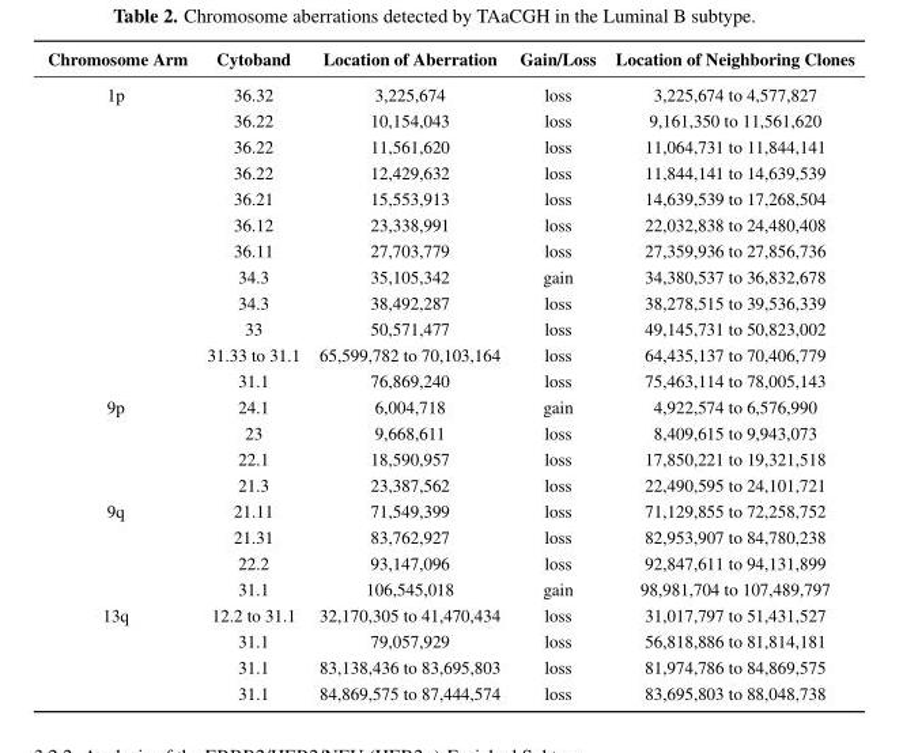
<table><thead><tr><td>Chromosome Arm</td><td>Cytoband</td><td>Location of Aberration</td><td>Gain/Loss</td><td>Location of Neighboring Clones</td></tr></thead><tbody><tr><td rowspan="12">1p</td><td>36.32</td><td>3,225,674</td><td>loss</td><td>3,225,674 to 4,577,827</td></tr><tr><td>36.22</td><td>10,154,043</td><td>loss</td><td>9,161,350 to 11,561,620</td></tr><tr><td>36.22</td><td>11,561,620</td><td>loss</td><td>11,064,731 to 11,844,141</td></tr><tr><td>36.22</td><td>12,429,632</td><td>loss</td><td>11,844,141 to 14,639,539</td></tr><tr><td>36.21</td><td>15,553,913</td><td>loss</td><td>14,639,539 to 17,268,504</td></tr><tr><td>36.12</td><td>23,338,991</td><td>loss</td><td>22,032,838 to 24,480,408</td></tr><tr><td>36.11</td><td>27,703,779</td><td>loss</td><td>27,359,936 to 27,856,736</td></tr><tr><td>34.3</td><td>35,105,342</td><td>gain</td><td>34,380,537 to 36,832,678</td></tr><tr><td>34.3</td><td>38,492,287</td><td>loss</td><td>38,278,515 to 39,536,339</td></tr><tr><td>33</td><td>50,571,477</td><td>loss</td><td>49,145,731 to 50,823,002</td></tr><tr><td>31.33 to 31.1</td><td>65,599,782 to 70,103,164</td><td>loss</td><td>64,435,137 to 70,406,779</td></tr><tr><td>31.1</td><td>76,869,240</td><td>loss</td><td>75,463,114 to 78,005,143</td></tr><tr><td rowspan="4">9p</td><td>24.1</td><td>6,004,718</td><td>gain</td><td>4,922,574 to 6,576,990</td></tr><tr><td>23</td><td>9,668,611</td><td>loss</td><td>8,409,615 to 9,943,073</td></tr><tr><td>22.1</td><td>18,590,957</td><td>loss</td><td>17,850,221 to 19,321,518</td></tr><tr><td>21.3</td><td>23,387,562</td><td>loss</td><td>22,490,595 to 24,101,721</td></tr><tr><td rowspan="4">9q</td><td>21.11</td><td>71,549,399</td><td>loss</td><td>71,129,855 to 72,258,752</td></tr><tr><td>21.31</td><td>83,762,927</td><td>loss</td><td>82,953,907 to 84,780,238</td></tr><tr><td>22.2</td><td>93,147,096</td><td>loss</td><td>92,847,611 to 94,131,899</td></tr><tr><td>31.1</td><td>106,545,018</td><td>gain</td><td>98,981,704 to 107,489,797</td></tr><tr><td rowspan="4">13q</td><td>12.2 to 31.1</td><td>32,170,305 to 41,470,434</td><td>loss</td><td>31,017,797 to 51,431,527</td></tr><tr><td>31.1</td><td>79,057,929</td><td>loss</td><td>56,818,886 to 81,814,181</td></tr><tr><td>31.1</td><td>83,138,436 to 83,695,803</td><td>loss</td><td>81,974,786 to 84,869,575</td></tr><tr><td>31.1</td><td>84,869,575 to 87,444,574</td><td>loss</td><td>83,695,803 to 88,048,738</td></tr></tbody></table>